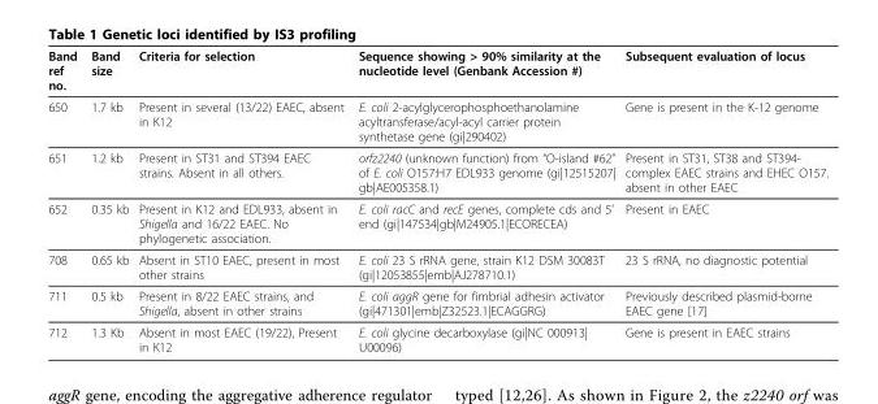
<table><thead><tr><td>Band ref no.</td><td>Band size</td><td>Criteria for selection</td><td>Sequence showing &gt; 90% similarity at the nucleotide level (Genbank Accession #)</td><td>Subsequent evaluation of locus</td></tr></thead><tbody><tr><td>650</td><td>1.7 kb</td><td>Present in several (13/22) EAEC, absent in K12</td><td>E. coli 2-acylglycerophosphoethanolamine acyltransferase/acyl-acyl carrier protein synthetase gene (gi|290402)</td><td>Gene is present in the K-12 genome</td></tr><tr><td>651</td><td>1.2 kb</td><td>Present in ST31 and ST394 EAEC strains. Absent in all others.</td><td>orfz2240 (unknown function) from “O-island #62” of E. coli O157:H7 EDL933 genome (gi|12515207| gb|AE005358.1)</td><td>Present in ST31, ST38 and ST394- complex EAEC strains and EHEC O157. absent in other EAEC</td></tr><tr><td>652</td><td>0.35 kb</td><td>Present in K12 and EDL933, absent in Shigella and 16/22 EAEC. No phylogenetic association.</td><td>E. coli racC and recE genes, complete cds and 5’ end (gi|147534|gb|M24905.1|ECORECEA)</td><td>Present in EAEC</td></tr><tr><td>708</td><td>0.65 kb</td><td>Absent in ST10 EAEC, present in most other strains</td><td>E. coli 23 S rRNA gene, strain K12 DSM 30083T (gi|12053855|emb|AJ278710.1)</td><td>23 S rRNA, no diagnostic potential</td></tr><tr><td>711</td><td>0.5 kb</td><td>Present in 8/22 EAEC strains, and Shigella, absent in other strains</td><td>E. coli aggR gene for fimbrial adhesin activator (gi|471301|emb|Z32523.1|ECAGGRG)</td><td>Previously described plasmid-borne EAEC gene [17]</td></tr><tr><td>712</td><td>1.3 Kb</td><td>Absent in most EAEC (19/22), Present in K12</td><td>E. coli glycine decarboxylase (gi|NC 000913| U00096)</td><td>Gene is present in EAEC strains</td></tr></tbody></table>